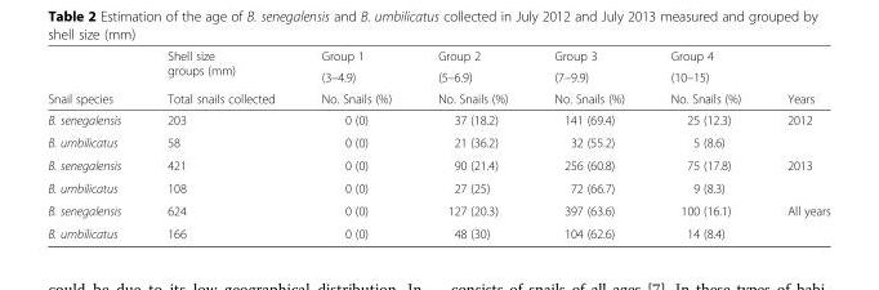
<table><thead><tr><td rowspan="3">Snail species</td><td rowspan="3">Shell size groups (mm) Total snails collected</td><td rowspan="3">Group 1 (3–4.9) No. Snails (%)</td><td rowspan="3">Group 2 (5–6.9) No. Snails (%)</td><td rowspan="3">Group 3 (7–9.9) No. Snails (%)</td><td rowspan="3">Group 4 (10–15) No. Snails (%)</td><td rowspan="3">Years</td></tr><tr></tr><tr></tr></thead><tbody><tr><td>B. senegalensis</td><td>203</td><td>0 (0)</td><td>37 (18.2)</td><td>141 (69.4)</td><td>25 (12.3)</td><td rowspan="2">2012</td></tr><tr><td>B. umbilicatus</td><td>58</td><td>0 (0)</td><td>21 (36.2)</td><td>32 (55.2)</td><td>5 (8.6)</td></tr><tr><td>B. senegalensis</td><td>421</td><td>0 (0)</td><td>90 (21.4)</td><td>256 (60.8)</td><td>75 (17.8)</td><td rowspan="2">2013</td></tr><tr><td>B. umbilicatus</td><td>108</td><td>0 (0)</td><td>27 (25)</td><td>72 (66.7)</td><td>9 (8.3)</td></tr><tr><td>B. senegalensis</td><td>624</td><td>0 (0)</td><td>127 (20.3)</td><td>397 (63.6)</td><td>100 (16.1)</td><td rowspan="2">All years</td></tr><tr><td>B. umbilicatus</td><td>166</td><td>0 (0)</td><td>48 (30)</td><td>104 (62.6)</td><td>14 (8.4)</td></tr></tbody></table>